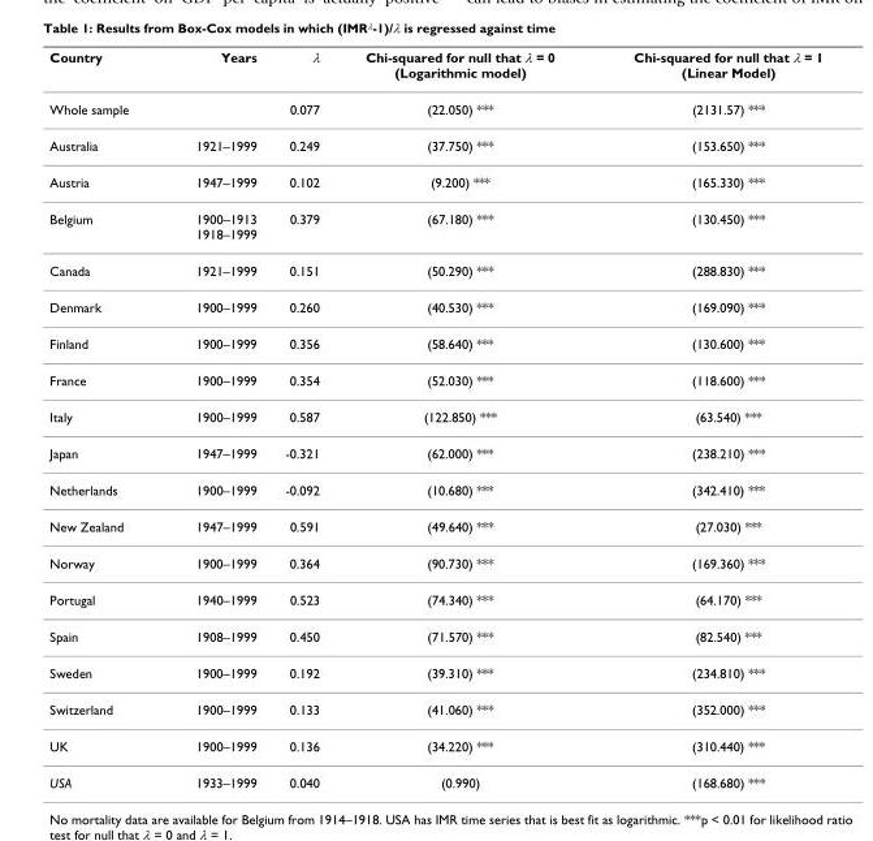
<table><thead><tr><td>Country</td><td>Years</td><td>λ</td><td>Chi-squared for null that λ = 0 (Logarithmic model)</td><td>Chi-squared for null that λ = 1 (Linear Model)</td></tr></thead><tbody><tr><td>Whole sample</td><td></td><td>0.077</td><td>(22.050) ***</td><td>(2131.57) ***</td></tr><tr><td>Australia</td><td>1921–1999</td><td>0.249</td><td>(37.750) ***</td><td>(153.650) ***</td></tr><tr><td>Austria</td><td>1947–1999</td><td>0.102</td><td>(9.200) ***</td><td>(165.330) ***</td></tr><tr><td>Belgium</td><td>1900–1913 1918–1999</td><td>0.379</td><td>(67.180) ***</td><td>(130.450) ***</td></tr><tr><td>Canada</td><td>1921–1999</td><td>0.151</td><td>(50.290) ***</td><td>(288.830) ***</td></tr><tr><td>Denmark</td><td>1900–1999</td><td>0.260</td><td>(40.530) ***</td><td>(169.090) ***</td></tr><tr><td>Finland</td><td>1900–1999</td><td>0.356</td><td>(58.640) ***</td><td>(130.600) ***</td></tr><tr><td>France</td><td>1900–1999</td><td>0.354</td><td>(52.030) ***</td><td>(118.600) ***</td></tr><tr><td>Italy</td><td>1900–1999</td><td>0.587</td><td>(122.850) ***</td><td>(63.540) ***</td></tr><tr><td>Japan</td><td>1947–1999</td><td>-0.321</td><td>(62.000) ***</td><td>(238.210) ***</td></tr><tr><td>Netherlands</td><td>1900–1999</td><td>-0.092</td><td>(10.680) ***</td><td>(342.410) ***</td></tr><tr><td>New Zealand</td><td>1947–1999</td><td>0.591</td><td>(49.640) ***</td><td>(27.030) ***</td></tr><tr><td>Norway</td><td>1900–1999</td><td>0.364</td><td>(90.730) ***</td><td>(169.360) ***</td></tr><tr><td>Portugal</td><td>1940–1999</td><td>0.523</td><td>(74.340) ***</td><td>(64.170) ***</td></tr><tr><td>Spain</td><td>1908–1999</td><td>0.450</td><td>(71.570) ***</td><td>(82.540) ***</td></tr><tr><td>Sweden</td><td>1900–1999</td><td>0.192</td><td>(39.310) ***</td><td>(234.810) ***</td></tr><tr><td>Switzerland</td><td>1900–1999</td><td>0.133</td><td>(41.060) ***</td><td>(352.000) ***</td></tr><tr><td>UK</td><td>1900–1999</td><td>0.136</td><td>(34.220) ***</td><td>(310.440) ***</td></tr><tr><td>USA</td><td>1933–1999</td><td>0.040</td><td>(0.990)</td><td>(168.680) ***</td></tr></tbody></table>